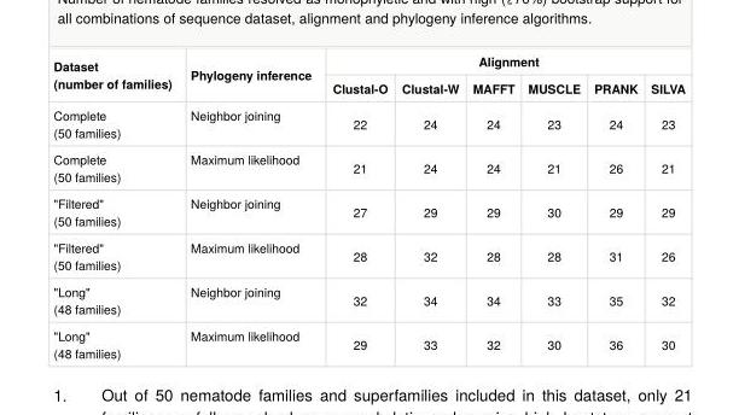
<table><tbody><tr><td rowspan="2">Dataset (number of families)</td><td rowspan="2">Phylogeny inference</td><td colspan="6">Alignment</td></tr><tr><td>Clustal-O</td><td>Clustal-W</td><td>MAFFT</td><td>MUSCLE</td><td>PRANK</td><td>SILVA</td></tr><tr><td>Complete (50 families)</td><td>Neighbor joining</td><td>22</td><td>24</td><td>24</td><td>23</td><td>24</td><td>23</td></tr><tr><td>Complete (50 families)</td><td>Maximum likelihood</td><td>21</td><td>24</td><td>24</td><td>21</td><td>26</td><td>21</td></tr><tr><td>&quot;Filtered&quot; (50 families)</td><td>Neighbor joining</td><td>27</td><td>29</td><td>29</td><td>30</td><td>29</td><td>29</td></tr><tr><td>&quot;Filtered&quot; (50 families)</td><td>Maximum likelihood</td><td>28</td><td>32</td><td>28</td><td>28</td><td>31</td><td>26</td></tr><tr><td>&quot;Long&quot; (48 families)</td><td>Neighbor joining</td><td>32</td><td>34</td><td>34</td><td>33</td><td>35</td><td>32</td></tr><tr><td>&quot;Long&quot; (48 families)</td><td>Maximum likelihood</td><td>29</td><td>33</td><td>32</td><td>30</td><td>36</td><td>30</td></tr></tbody></table>